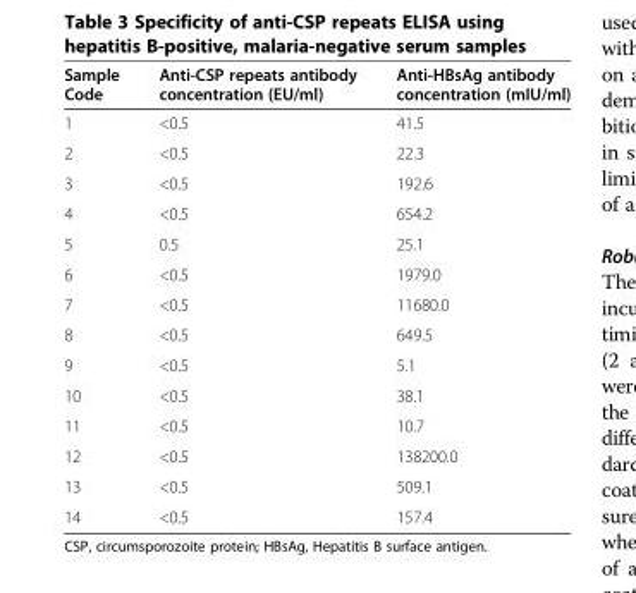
<table><thead><tr><td>Sample Code</td><td>Anti-CSP repeats antibody concentration (EU/ml)</td><td>Anti-HBsAg antibody concentration (mIU/ml)</td></tr></thead><tbody><tr><td>1</td><td>&lt;0.5</td><td>41.5</td></tr><tr><td>2</td><td>&lt;0.5</td><td>22.3</td></tr><tr><td>3</td><td>&lt;0.5</td><td>192.6</td></tr><tr><td>4</td><td>&lt;0.5</td><td>654.2</td></tr><tr><td>5</td><td>0.5</td><td>25.1</td></tr><tr><td>6</td><td>&lt;0.5</td><td>1979.0</td></tr><tr><td>7</td><td>&lt;0.5</td><td>11680.0</td></tr><tr><td>8</td><td>&lt;0.5</td><td>649.5</td></tr><tr><td>9</td><td>&lt;0.5</td><td>5.1</td></tr><tr><td>10</td><td>&lt;0.5</td><td>38.1</td></tr><tr><td>11</td><td>&lt;0.5</td><td>10.7</td></tr><tr><td>12</td><td>&lt;0.5</td><td>138200.0</td></tr><tr><td>13</td><td>&lt;0.5</td><td>509.1</td></tr><tr><td>14</td><td>&lt;0.5</td><td>157.4</td></tr></tbody></table>